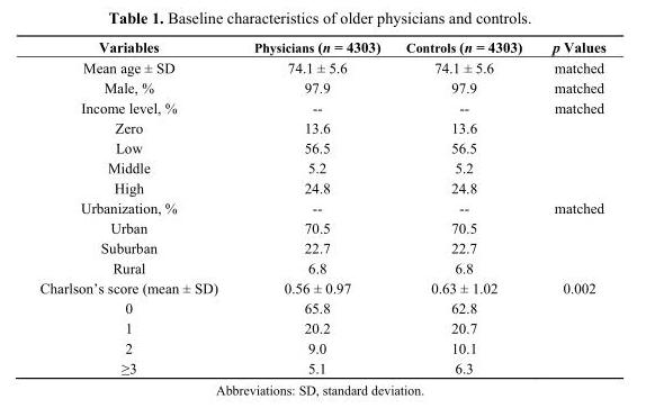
<table><thead><tr><td>Variables</td><td>Physicians (n = 4303)</td><td>Controls (n = 4303)</td><td>p Values</td></tr></thead><tbody><tr><td>Mean age ± SD</td><td>74.1 ± 5.6</td><td>74.1 ± 5.6</td><td>matched</td></tr><tr><td>Male, %</td><td>97.9</td><td>97.9</td><td>matched</td></tr><tr><td>Income level, %</td><td>--</td><td>--</td><td>matched</td></tr><tr><td>Zero</td><td>13.6</td><td>13.6</td><td></td></tr><tr><td>Low</td><td>56.5</td><td>56.5</td><td></td></tr><tr><td>Middle</td><td>5.2</td><td>5.2</td><td></td></tr><tr><td>High</td><td>24.8</td><td>24.8</td><td></td></tr><tr><td>Urbanization, %</td><td>--</td><td>--</td><td>matched</td></tr><tr><td>Urban</td><td>70.5</td><td>70.5</td><td></td></tr><tr><td>Suburban</td><td>22.7</td><td>22.7</td><td></td></tr><tr><td>Rural</td><td>6.8</td><td>6.8</td><td></td></tr><tr><td>Charlson’s score (mean ± SD)</td><td>0.56 ± 0.97</td><td>0.63 ± 1.02</td><td>0.002</td></tr><tr><td>0</td><td>65.8</td><td>62.8</td><td></td></tr><tr><td>1</td><td>20.2</td><td>20.7</td><td></td></tr><tr><td>2</td><td>9.0</td><td>10.1</td><td></td></tr><tr><td>≥3</td><td>5.1</td><td>6.3</td><td></td></tr></tbody></table>